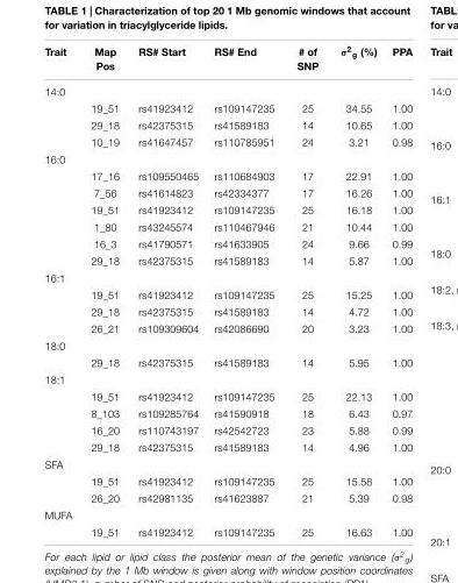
<table><thead><tr><td>Trait</td><td>Map Pos</td><td>RS# Start</td><td>RS# End</td><td># of SNP</td><td>σ<sup>2</sup><sub>g</sub> (%)</td><td>PPA</td></tr></thead><tbody><tr><td colspan="7">14:0</td></tr><tr><td></td><td>19_51</td><td>rs41923412</td><td>rs109147235</td><td>25</td><td>34.55</td><td>1.00</td></tr><tr><td></td><td>29_18</td><td>rs42375315</td><td>rs41589183</td><td>14</td><td>10.65</td><td>1.00</td></tr><tr><td></td><td>10_19</td><td>rs41647457</td><td>rs110785951</td><td>24</td><td>3.21</td><td>0.98</td></tr><tr><td colspan="7">16:0</td></tr><tr><td></td><td>17_16</td><td>rs109550465</td><td>rs110684903</td><td>17</td><td>22.91</td><td>1.00</td></tr><tr><td></td><td>7_56</td><td>rs41614823</td><td>rs42334377</td><td>17</td><td>16.26</td><td>1.00</td></tr><tr><td></td><td>19_51</td><td>rs41923412</td><td>rs109147235</td><td>25</td><td>16.18</td><td>1.00</td></tr><tr><td></td><td>1_80</td><td>rs43245574</td><td>rs110467946</td><td>21</td><td>10.44</td><td>1.00</td></tr><tr><td></td><td>16_3</td><td>rs41790571</td><td>rs41633905</td><td>24</td><td>9.66</td><td>0.99</td></tr><tr><td></td><td>29_18</td><td>rs42375315</td><td>rs41589183</td><td>14</td><td>5.87</td><td>1.00</td></tr><tr><td colspan="7">16:1</td></tr><tr><td></td><td>19_51</td><td>rs41923412</td><td>rs109147235</td><td>25</td><td>15.25</td><td>1.00</td></tr><tr><td></td><td>29_18</td><td>rs42375315</td><td>rs41589183</td><td>14</td><td>4.72</td><td>1.00</td></tr><tr><td></td><td>26_21</td><td>rs109309604</td><td>rs42086690</td><td>20</td><td>3.23</td><td>1.00</td></tr><tr><td colspan="7">18:0</td></tr><tr><td></td><td>29_18</td><td>rs42375315</td><td>rs41589183</td><td>14</td><td>5.95</td><td>1.00</td></tr><tr><td colspan="7">18:1</td></tr><tr><td></td><td>19_51</td><td>rs41923412</td><td>rs109147235</td><td>25</td><td>22.13</td><td>1.00</td></tr><tr><td></td><td>8_103</td><td>rs109285764</td><td>rs41590918</td><td>18</td><td>6.43</td><td>0.97</td></tr><tr><td></td><td>16_20</td><td>rs110743197</td><td>rs42542723</td><td>23</td><td>5.88</td><td>0.99</td></tr><tr><td></td><td>29_18</td><td>rs42375315</td><td>rs41589183</td><td>14</td><td>4.96</td><td>1.00</td></tr><tr><td colspan="7">SFA</td></tr><tr><td></td><td>19_51</td><td>rs41923412</td><td>rs109147235</td><td>25</td><td>15.58</td><td>1.00</td></tr><tr><td></td><td>26_20</td><td>rs42981135</td><td>rs41623887</td><td>21</td><td>5.39</td><td>0.98</td></tr><tr><td colspan="7">MUFA</td></tr><tr><td></td><td>19_51</td><td>rs41923412</td><td>rs109147235</td><td>25</td><td>16.63</td><td>1.00</td></tr></tbody></table>